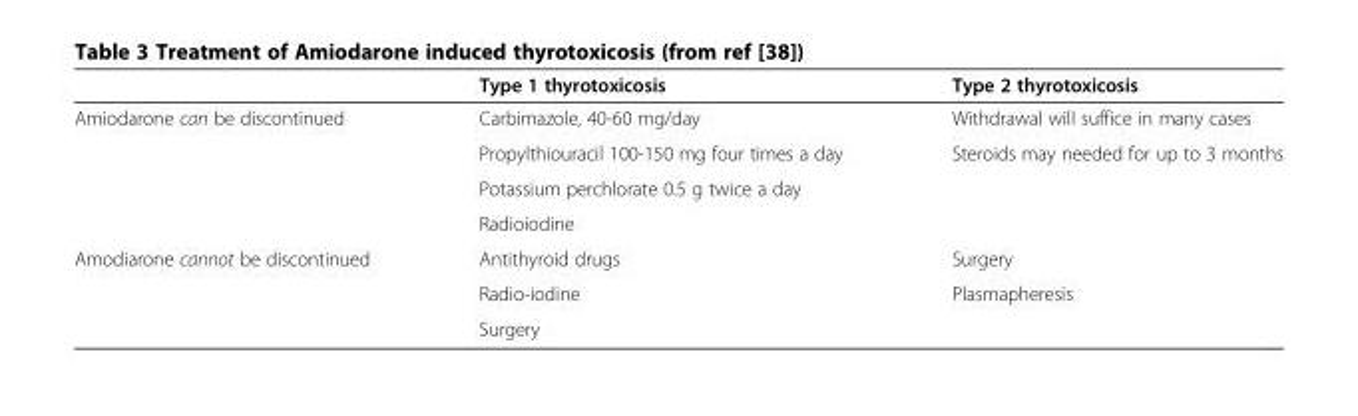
<table><thead><tr><td></td><td>Type 1 thyrotoxicosis</td><td>Type 2 thyrotoxicosis</td></tr></thead><tbody><tr><td rowspan="4">Amiodarone can be discontinued</td><td>Carbimazole, 40-60 mg/day</td><td>Withdrawal will suffice in many cases</td></tr><tr><td>Propylthiouracil 100-150 mg four times a day</td><td>Steroids may needed for up to 3 months</td></tr><tr><td>Potassium perchlorate 0.5 g twice a day</td><td rowspan="2"></td></tr><tr><td>Radioiodine</td></tr><tr><td rowspan="3">Amodiarone cannot be discontinued</td><td>Antithyroid drugs</td><td>Surgery</td></tr><tr><td>Radio-iodine</td><td>Plasmapheresis</td></tr><tr><td>Surgery</td><td></td></tr></tbody></table>